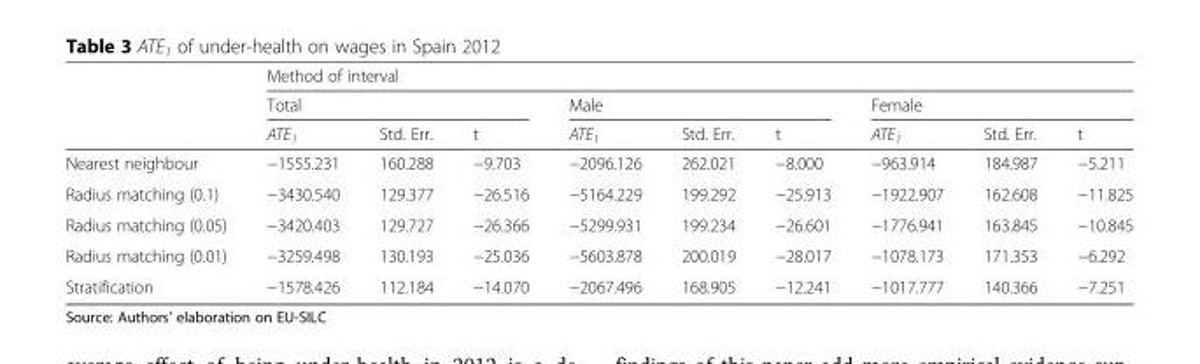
<table><thead><tr><td rowspan="3"></td><td colspan="9">Method of interval</td></tr><tr><td colspan="3">Total</td><td colspan="3">Male</td><td colspan="3">Female</td></tr><tr><td>ATE<sub>1</sub></td><td>Std. Err.</td><td>t</td><td>ATE<sub>1</sub></td><td>Std. Err.</td><td>t</td><td>ATE<sub>1</sub></td><td>Std. Err.</td><td>t</td></tr></thead><tbody><tr><td>Nearest neighbour</td><td>−1555.231</td><td>160.288</td><td>−9.703</td><td>−2096.126</td><td>262.021</td><td>−8.000</td><td>−963.914</td><td>184.987</td><td>−5.211</td></tr><tr><td>Radius matching (0.1)</td><td>−3430.540</td><td>129.377</td><td>−26.516</td><td>−5164.229</td><td>199.292</td><td>−25.913</td><td>−1922.907</td><td>162.608</td><td>−11.825</td></tr><tr><td>Radius matching (0.05)</td><td>−3420.403</td><td>129.727</td><td>−26.366</td><td>−5299.931</td><td>199.234</td><td>−26.601</td><td>−1776.941</td><td>163.845</td><td>−10.845</td></tr><tr><td>Radius matching (0.01)</td><td>−3259.498</td><td>130.193</td><td>−25.036</td><td>−5603.878</td><td>200.019</td><td>−28.017</td><td>−1078.173</td><td>171.353</td><td>−6.292</td></tr><tr><td>Stratification</td><td>−1578.426</td><td>112.184</td><td>−14.070</td><td>−2067.496</td><td>168.905</td><td>−12.241</td><td>−1017.777</td><td>140.366</td><td>−7.251</td></tr></tbody></table>